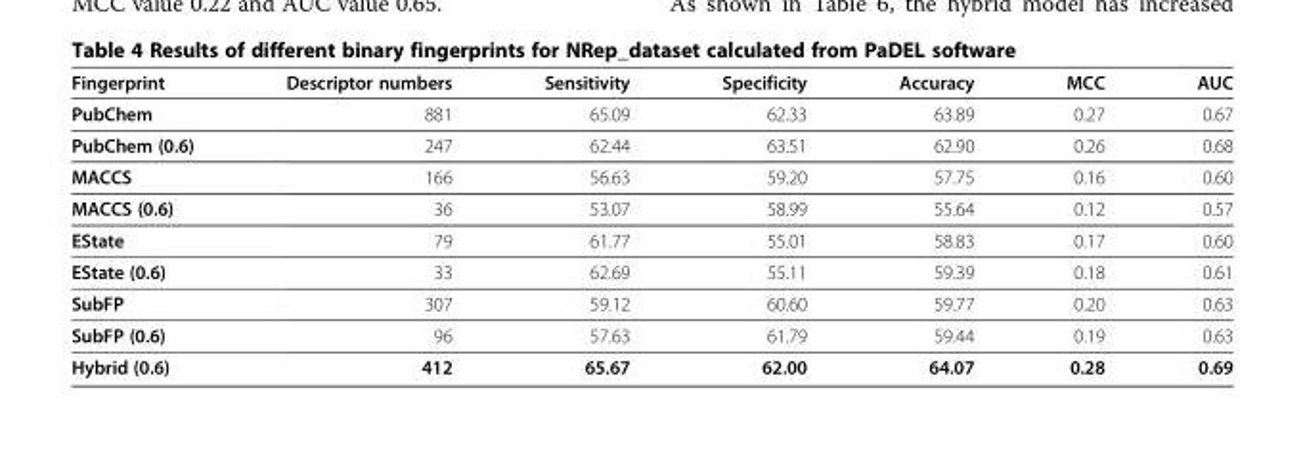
<table><thead><tr><td>Fingerprint</td><td>Descriptor numbers</td><td>Sensitivity</td><td>Specificity</td><td>Accuracy</td><td>MCC</td><td>AUC</td></tr></thead><tbody><tr><td>PubChem</td><td>881</td><td>65.09</td><td>62.33</td><td>63.89</td><td>0.27</td><td>0.67</td></tr><tr><td>PubChem (0.6)</td><td>247</td><td>62.44</td><td>63.51</td><td>62.90</td><td>0.26</td><td>0.68</td></tr><tr><td>MACCS</td><td>166</td><td>56.63</td><td>59.20</td><td>57.75</td><td>0.16</td><td>0.60</td></tr><tr><td>MACCS (0.6)</td><td>36</td><td>53.07</td><td>58.99</td><td>55.64</td><td>0.12</td><td>0.57</td></tr><tr><td>EState</td><td>79</td><td>61.77</td><td>55.01</td><td>58.83</td><td>0.17</td><td>0.60</td></tr><tr><td>EState (0.6)</td><td>33</td><td>62.69</td><td>55.11</td><td>59.39</td><td>0.18</td><td>0.61</td></tr><tr><td>SubFP</td><td>307</td><td>59.12</td><td>60.60</td><td>59.77</td><td>0.20</td><td>0.63</td></tr><tr><td>SubFP (0.6)</td><td>96</td><td>57.63</td><td>61.79</td><td>59.44</td><td>0.19</td><td>0.63</td></tr><tr><td>Hybrid (0.6)</td><td>412</td><td>65.67</td><td>62.00</td><td>64.07</td><td>0.28</td><td>0.69</td></tr></tbody></table>